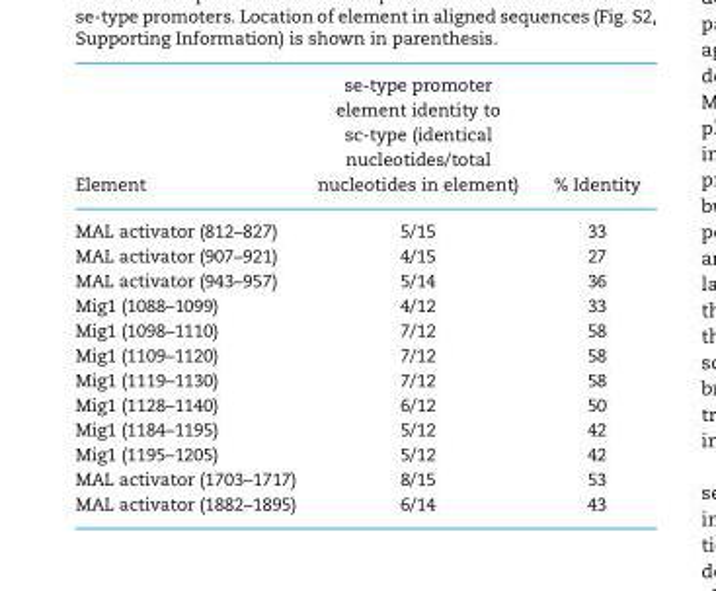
<table><thead><tr><td>Element</td><td>se-type promoter element identity to sc-type (identical nucleotides/total nucleotides in element)</td><td>% Identity</td></tr></thead><tbody><tr><td>MAL activator (812–827)</td><td>5/15</td><td>33</td></tr><tr><td>MAL activator (907–921)</td><td>4/15</td><td>27</td></tr><tr><td>MAL activator (943–957)</td><td>5/14</td><td>36</td></tr><tr><td>Mig1 (1088–1099)</td><td>4/12</td><td>33</td></tr><tr><td>Mig1 (1098–1110)</td><td>7/12</td><td>58</td></tr><tr><td>Mig1 (1109–1120)</td><td>7/12</td><td>58</td></tr><tr><td>Mig1 (1119–1130)</td><td>7/12</td><td>58</td></tr><tr><td>Mig1 (1128–1140)</td><td>6/12</td><td>50</td></tr><tr><td>Mig1 (1184–1195)</td><td>5/12</td><td>42</td></tr><tr><td>Mig1 (1195–1205)</td><td>5/12</td><td>42</td></tr><tr><td>MAL activator (1703–1717)</td><td>8/15</td><td>53</td></tr><tr><td>MAL activator (1882–1895)</td><td>6/14</td><td>43</td></tr></tbody></table>